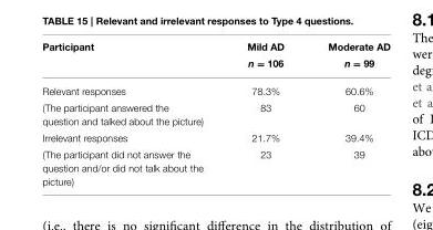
<table><thead><tr><td>Participant</td><td>Mild AD n = 106</td><td>Moderate AD n = 99</td></tr></thead><tbody><tr><td>Relevant responses</td><td>78.3%</td><td>60.6%</td></tr><tr><td>(The participant answered the question and talked about the picture)</td><td>83</td><td>60</td></tr><tr><td>Irrelevant responses</td><td>21.7%</td><td>39.4%</td></tr><tr><td>(The participant did not answer the question and/or did not talk about the picture)</td><td>23</td><td>39</td></tr></tbody></table>